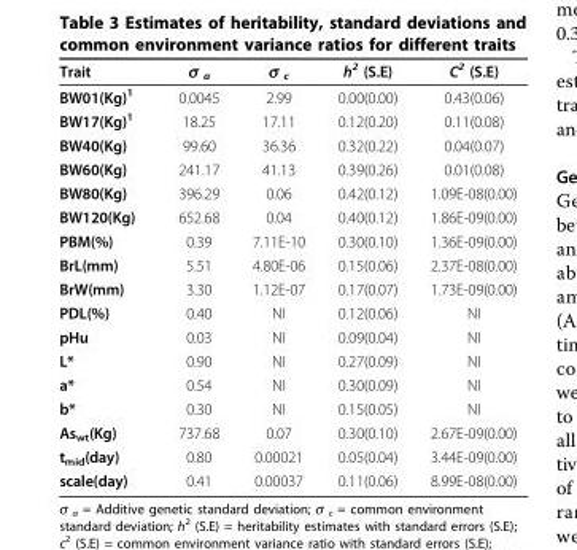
<table><thead><tr><td>Trait</td><td>σ <sub>a</sub></td><td>σ <sub>c</sub></td><td>h<sup>2</sup> (S.E)</td><td>C<sup>2</sup> (S.E)</td></tr></thead><tbody><tr><td>BW01(Kg)<sup>1</sup></td><td>0.0045</td><td>2.99</td><td>0.00(0.00)</td><td>0.43(0.06)</td></tr><tr><td>BW17(Kg)<sup>1</sup></td><td>18.25</td><td>17.11</td><td>0.12(0.20)</td><td>0.11(0.08)</td></tr><tr><td>BW40(Kg)</td><td>99.60</td><td>36.36</td><td>0.32(0.22)</td><td>0.04(0.07)</td></tr><tr><td>BW60(Kg)</td><td>241.17</td><td>41.13</td><td>0.39(0.26)</td><td>0.01(0.08)</td></tr><tr><td>BW80(Kg)</td><td>396.29</td><td>0.06</td><td>0.42(0.12)</td><td>1.09E-08(0.00)</td></tr><tr><td>BW120(Kg)</td><td>652.68</td><td>0.04</td><td>0.40(0.12)</td><td>1.86E-09(0.00)</td></tr><tr><td>PBM(%)</td><td>0.39</td><td>7.11E-10</td><td>0.30(0.10)</td><td>1.36E-09(0.00)</td></tr><tr><td>BrL(mm)</td><td>5.51</td><td>4.80E-06</td><td>0.15(0.06)</td><td>2.37E-08(0.00)</td></tr><tr><td>BrW(mm)</td><td>3.30</td><td>1.12E-07</td><td>0.17(0.07)</td><td>1.73E-09(0.00)</td></tr><tr><td>PDL(%)</td><td>0.40</td><td>NI</td><td>0.12(0.06)</td><td>NI</td></tr><tr><td>pHu</td><td>0.03</td><td>NI</td><td>0.09(0.04)</td><td>NI</td></tr><tr><td>L*</td><td>0.90</td><td>NI</td><td>0.27(0.09)</td><td>NI</td></tr><tr><td>a*</td><td>0.54</td><td>NI</td><td>0.30(0.09)</td><td>NI</td></tr><tr><td>b*</td><td>0.30</td><td>NI</td><td>0.15(0.05)</td><td>NI</td></tr><tr><td>As<sub>wt</sub>(Kg)</td><td>737.68</td><td>0.07</td><td>0.30(0.10)</td><td>2.67E-09(0.00)</td></tr><tr><td>t<sub>mid</sub>(day)</td><td>0.80</td><td>0.00021</td><td>0.05(0.04)</td><td>3.44E-09(0.00)</td></tr><tr><td>scale(day)</td><td>0.41</td><td>0.00037</td><td>0.11(0.06)</td><td>8.99E-08(0.00)</td></tr></tbody></table>